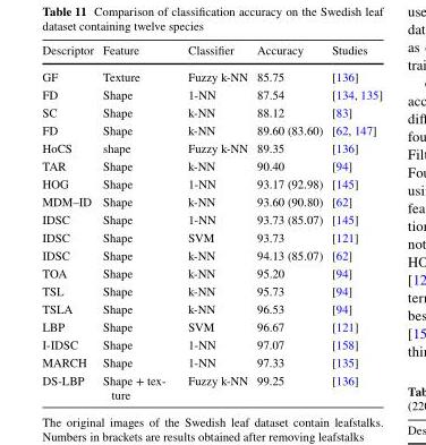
<table><thead><tr><td>Descriptor</td><td>Feature</td><td>Classifier</td><td>Accuracy</td><td>Studies</td></tr></thead><tbody><tr><td>GF</td><td>Texture</td><td>Fuzzy k-NN</td><td>85.75</td><td>[136]</td></tr><tr><td>FD</td><td>Shape</td><td>1-NN</td><td>87.54</td><td>[134, 135]</td></tr><tr><td>SC</td><td>Shape</td><td>k-NN</td><td>88.12</td><td>[83]</td></tr><tr><td>FD</td><td>Shape</td><td>k-NN</td><td>89.60 (83.60)</td><td>[62, 147]</td></tr><tr><td>HoCS</td><td>shape</td><td>Fuzzy k-NN</td><td>89.35</td><td>[136]</td></tr><tr><td>TAR</td><td>Shape</td><td>k-NN</td><td>90.40</td><td>[94]</td></tr><tr><td>HOG</td><td>Shape</td><td>1-NN</td><td>93.17 (92.98)</td><td>[145]</td></tr><tr><td>MDM–ID</td><td>Shape</td><td>k-NN</td><td>93.60 (90.80)</td><td>[62]</td></tr><tr><td>IDSC</td><td>Shape</td><td>1-NN</td><td>93.73 (85.07)</td><td>[145]</td></tr><tr><td>IDSC</td><td>Shape</td><td>SVM</td><td>93.73</td><td>[121]</td></tr><tr><td>IDSC</td><td>Shape</td><td>k-NN</td><td>94.13 (85.07)</td><td>[62]</td></tr><tr><td>TOA</td><td>Shape</td><td>k-NN</td><td>95.20</td><td>[94]</td></tr><tr><td>TSL</td><td>Shape</td><td>k-NN</td><td>95.73</td><td>[94]</td></tr><tr><td>TSLA</td><td>Shape</td><td>k-NN</td><td>96.53</td><td>[94]</td></tr><tr><td>LBP</td><td>Shape</td><td>SVM</td><td>96.67</td><td>[121]</td></tr><tr><td>I-IDSC</td><td>Shape</td><td>1-NN</td><td>97.07</td><td>[158]</td></tr><tr><td>MARCH</td><td>Shape</td><td>1-NN</td><td>97.33</td><td>[135]</td></tr><tr><td>DS-LBP</td><td>Shape + tex- ture</td><td>Fuzzy k-NN</td><td>99.25</td><td>[136]</td></tr></tbody></table>